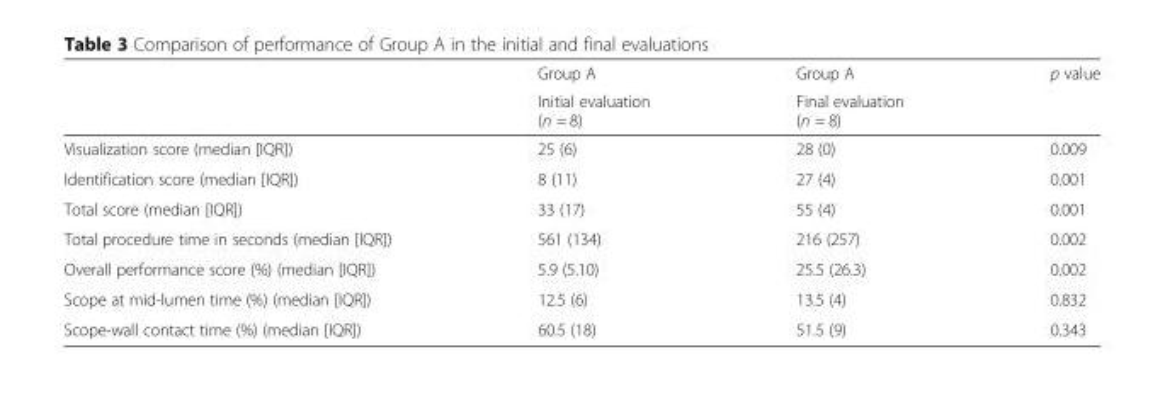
<table><thead><tr><td rowspan="2"></td><td rowspan="2">Group A Initial evaluation (n = 8)</td><td rowspan="2">Group A Final evaluation (n = 8)</td><td rowspan="2">p value</td></tr><tr></tr></thead><tbody><tr><td>Visualization score (median [IQR])</td><td>25 (6)</td><td>28 (0)</td><td>0.009</td></tr><tr><td>Identification score (median [IQR])</td><td>8 (11)</td><td>27 (4)</td><td>0.001</td></tr><tr><td>Total score (median [IQR])</td><td>33 (17)</td><td>55 (4)</td><td>0.001</td></tr><tr><td>Total procedure time in seconds (median [IQR])</td><td>561 (134)</td><td>216 (257)</td><td>0.002</td></tr><tr><td>Overall performance score (%) (median [IQR])</td><td>5.9 (5.10)</td><td>25.5 (26.3)</td><td>0.002</td></tr><tr><td>Scope at mid-lumen time (%) (median [IQR])</td><td>12.5 (6)</td><td>13.5 (4)</td><td>0.832</td></tr><tr><td>Scope-wall contact time (%) (median [IQR])</td><td>60.5 (18)</td><td>51.5 (9)</td><td>0.343</td></tr></tbody></table>